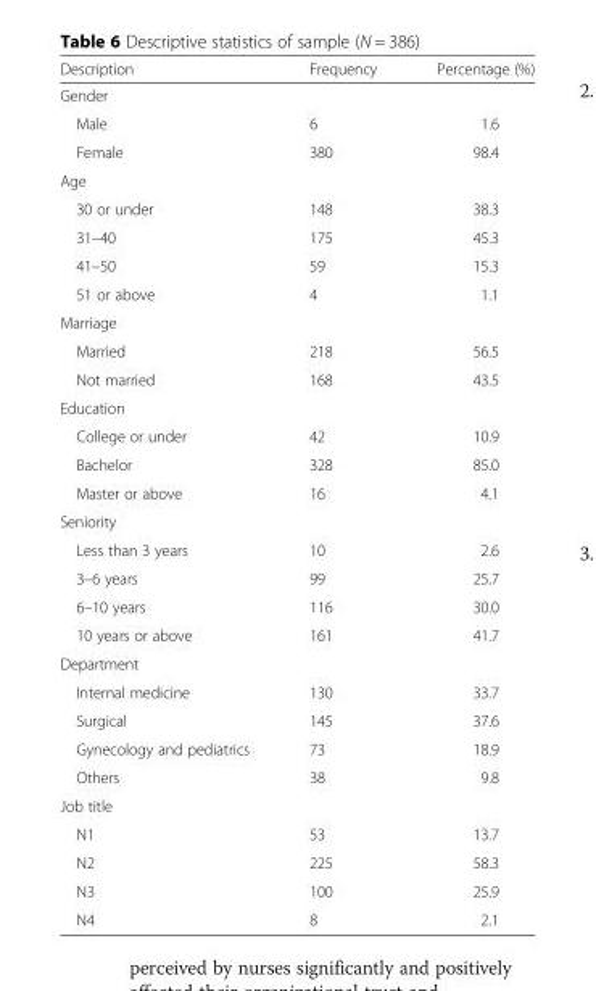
<table><thead><tr><td>Description</td><td>Frequency</td><td>Percentage (%)</td></tr></thead><tbody><tr><td colspan="3">Gender</td></tr><tr><td>Male</td><td>6</td><td>1.6</td></tr><tr><td>Female</td><td>380</td><td>98.4</td></tr><tr><td colspan="3">Age</td></tr><tr><td>30 or under</td><td>148</td><td>38.3</td></tr><tr><td>31–40</td><td>175</td><td>45.3</td></tr><tr><td>41–50</td><td>59</td><td>15.3</td></tr><tr><td>51 or above</td><td>4</td><td>1.1</td></tr><tr><td colspan="3">Marriage</td></tr><tr><td>Married</td><td>218</td><td>56.5</td></tr><tr><td>Not married</td><td>168</td><td>43.5</td></tr><tr><td colspan="3">Education</td></tr><tr><td>College or under</td><td>42</td><td>10.9</td></tr><tr><td>Bachelor</td><td>328</td><td>85.0</td></tr><tr><td>Master or above</td><td>16</td><td>4.1</td></tr><tr><td colspan="3">Seniority</td></tr><tr><td>Less than 3 years</td><td>10</td><td>2.6</td></tr><tr><td>3–6 years</td><td>99</td><td>25.7</td></tr><tr><td>6–10 years</td><td>116</td><td>30.0</td></tr><tr><td>10 years or above</td><td>161</td><td>41.7</td></tr><tr><td colspan="3">Department</td></tr><tr><td>Internal medicine</td><td>130</td><td>33.7</td></tr><tr><td>Surgical</td><td>145</td><td>37.6</td></tr><tr><td>Gynecology and pediatrics</td><td>73</td><td>18.9</td></tr><tr><td>Others</td><td>38</td><td>9.8</td></tr><tr><td colspan="3">Job title</td></tr><tr><td>N1</td><td>53</td><td>13.7</td></tr><tr><td>N2</td><td>225</td><td>58.3</td></tr><tr><td>N3</td><td>100</td><td>25.9</td></tr><tr><td>N4</td><td>8</td><td>2.1</td></tr></tbody></table>